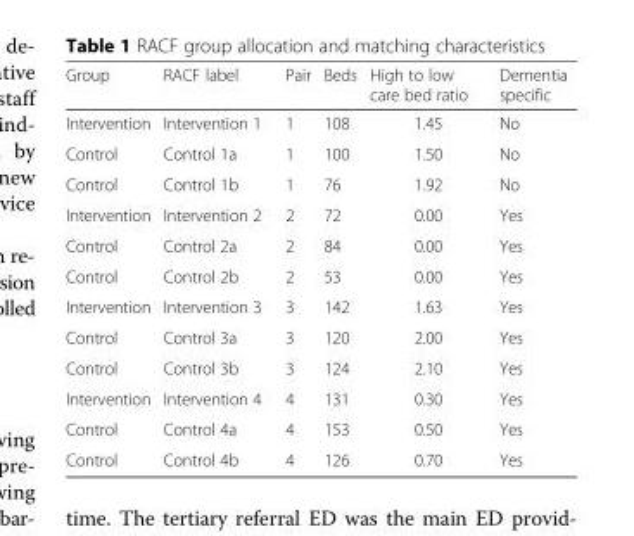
<table><thead><tr><td>Group</td><td>RACF label</td><td>Pair</td><td>Beds</td><td>High to low care bed ratio</td><td>Dementia specific</td></tr></thead><tbody><tr><td>Intervention</td><td>Intervention 1</td><td>1</td><td>108</td><td>1.45</td><td>No</td></tr><tr><td>Control</td><td>Control 1a</td><td>1</td><td>100</td><td>1.50</td><td>No</td></tr><tr><td>Control</td><td>Control 1b</td><td>1</td><td>76</td><td>1.92</td><td>No</td></tr><tr><td>Intervention</td><td>Intervention 2</td><td>2</td><td>72</td><td>0.00</td><td>Yes</td></tr><tr><td>Control</td><td>Control 2a</td><td>2</td><td>84</td><td>0.00</td><td>Yes</td></tr><tr><td>Control</td><td>Control 2b</td><td>2</td><td>53</td><td>0.00</td><td>Yes</td></tr><tr><td>Intervention</td><td>Intervention 3</td><td>3</td><td>142</td><td>1.63</td><td>Yes</td></tr><tr><td>Control</td><td>Control 3a</td><td>3</td><td>120</td><td>2.00</td><td>Yes</td></tr><tr><td>Control</td><td>Control 3b</td><td>3</td><td>124</td><td>2.10</td><td>Yes</td></tr><tr><td>Intervention</td><td>Intervention 4</td><td>4</td><td>131</td><td>0.30</td><td>Yes</td></tr><tr><td>Control</td><td>Control 4a</td><td>4</td><td>153</td><td>0.50</td><td>Yes</td></tr><tr><td>Control</td><td>Control 4b</td><td>4</td><td>126</td><td>0.70</td><td>Yes</td></tr></tbody></table>